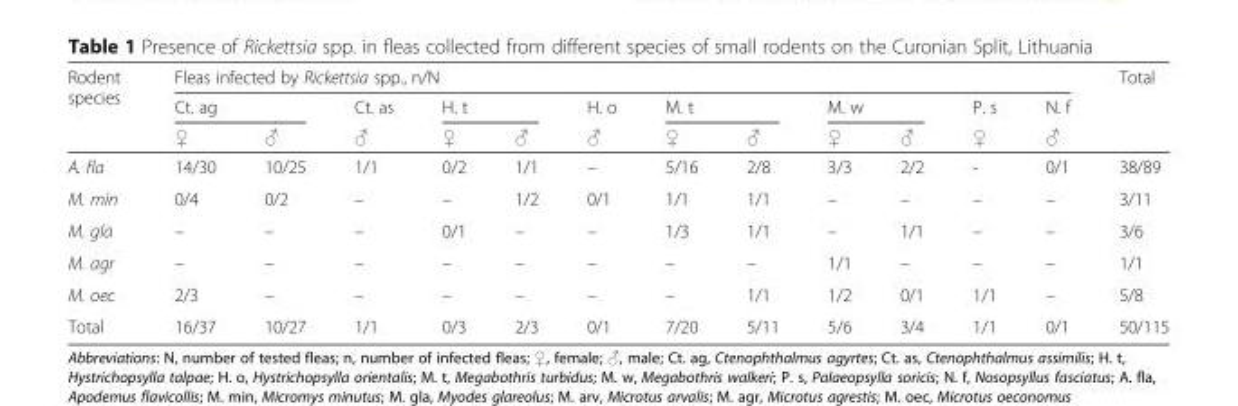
<table><thead><tr><td rowspan="3">Rodent species</td><td colspan="12">Fleas infected by Rickettsia spp., n/N</td><td rowspan="3">Total</td></tr><tr><td colspan="2">Ct. ag</td><td rowspan="2">Ct. as ♂</td><td colspan="2">H. t</td><td rowspan="2">H. o ♂</td><td colspan="2">M. t</td><td colspan="2">M. w</td><td rowspan="2">P. s ♀</td><td rowspan="2">N. f ♂</td></tr><tr><td>♀</td><td>♂</td><td>♀</td><td>♂</td><td>♀</td><td>♂</td><td>♀</td><td>♂</td></tr></thead><tbody><tr><td>A. fla</td><td>14/30</td><td>10/25</td><td>1/1</td><td>0/2</td><td>1/1</td><td>–</td><td>5/16</td><td>2/8</td><td>3/3</td><td>2/2</td><td>-</td><td>0/1</td><td>38/89</td></tr><tr><td>M. min</td><td>0/4</td><td>0/2</td><td>–</td><td>–</td><td>1/2</td><td>0/1</td><td>1/1</td><td>1/1</td><td>–</td><td>–</td><td>–</td><td>–</td><td>3/11</td></tr><tr><td>M. gla</td><td>–</td><td>–</td><td>–</td><td>0/1</td><td>–</td><td>–</td><td>1/3</td><td>1/1</td><td>–</td><td>1/1</td><td>–</td><td>–</td><td>3/6</td></tr><tr><td>M. agr</td><td>–</td><td>–</td><td>–</td><td>–</td><td>–</td><td>–</td><td>–</td><td>–</td><td>1/1</td><td>–</td><td>–</td><td>–</td><td>1/1</td></tr><tr><td>M. oec</td><td>2/3</td><td>–</td><td>–</td><td>–</td><td>–</td><td>–</td><td>–</td><td>1/1</td><td>1/2</td><td>0/1</td><td>1/1</td><td>–</td><td>5/8</td></tr><tr><td>Total</td><td>16/37</td><td>10/27</td><td>1/1</td><td>0/3</td><td>2/3</td><td>0/1</td><td>7/20</td><td>5/11</td><td>5/6</td><td>3/4</td><td>1/1</td><td>0/1</td><td>50/115</td></tr></tbody></table>